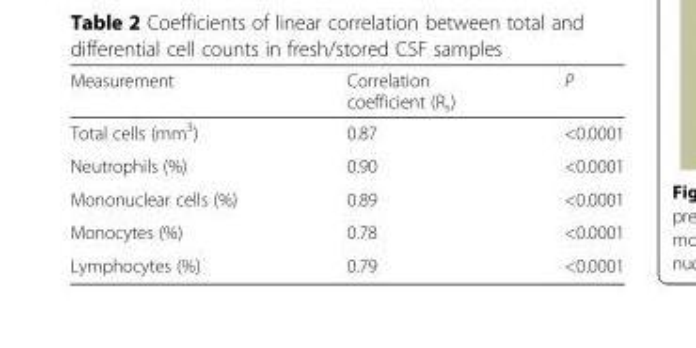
<table><thead><tr><td>Measurement</td><td>Correlation coefficient (R<sub>s</sub>)</td><td>P</td></tr></thead><tbody><tr><td>Total cells (mm<sup>3</sup>)</td><td>0.87</td><td>&lt;0.0001</td></tr><tr><td>Neutrophils (%)</td><td>0.90</td><td>&lt;0.0001</td></tr><tr><td>Mononuclear cells (%)</td><td>0.89</td><td>&lt;0.0001</td></tr><tr><td>Monocytes (%)</td><td>0.78</td><td>&lt;0.0001</td></tr><tr><td>Lymphocytes (%)</td><td>0.79</td><td>&lt;0.0001</td></tr></tbody></table>